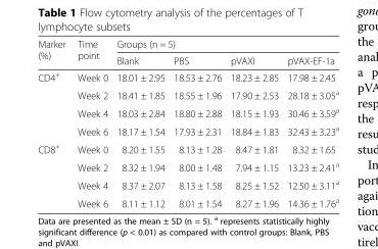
<table><thead><tr><td rowspan="2">Marker (%)</td><td rowspan="2">Time point</td><td colspan="4">Groups (n = 5)</td></tr><tr><td>Blank</td><td>PBS</td><td>pVAXI</td><td>pVAX-EF-1a</td></tr></thead><tbody><tr><td rowspan="4">CD4<sup>+</sup></td><td>Week 0</td><td>18.01 ± 2.95</td><td>18.53 ± 2.76</td><td>18.23 ± 2.85</td><td>17.98 ± 2.45</td></tr><tr><td>Week 2</td><td>18.41 ± 1.85</td><td>18.55 ± 1.96</td><td>17.90 ± 2.53</td><td>28.18 ± 3.05<sup>a</sup></td></tr><tr><td>Week 4</td><td>18.03 ± 2.84</td><td>18.80 ± 2.88</td><td>18.15 ± 1.93</td><td>30.46 ± 3.59<sup>a</sup></td></tr><tr><td>Week 6</td><td>18.17 ± 1.54</td><td>17.93 ± 2.31</td><td>18.84 ± 1.83</td><td>32.43 ± 3.23<sup>a</sup></td></tr><tr><td rowspan="4">CD8<sup>+</sup></td><td>Week 0</td><td>8.20 ± 1.55</td><td>8.13 ± 1.28</td><td>8.47 ± 1.81</td><td>8.32 ± 1.65</td></tr><tr><td>Week 2</td><td>8.32 ± 1.94</td><td>8.00 ± 1.48</td><td>7.94 ± 1.15</td><td>13.23 ± 2.41<sup>a</sup></td></tr><tr><td>Week 4</td><td>8.37 ± 2.07</td><td>8.13 ± 1.58</td><td>8.25 ± 1.52</td><td>12.50 ± 3.11<sup>a</sup></td></tr><tr><td>Week 6</td><td>8.11 ± 1.12</td><td>8.01 ± 1.54</td><td>8.27 ± 1.96</td><td>14.36 ± 1.76<sup>a</sup></td></tr></tbody></table>